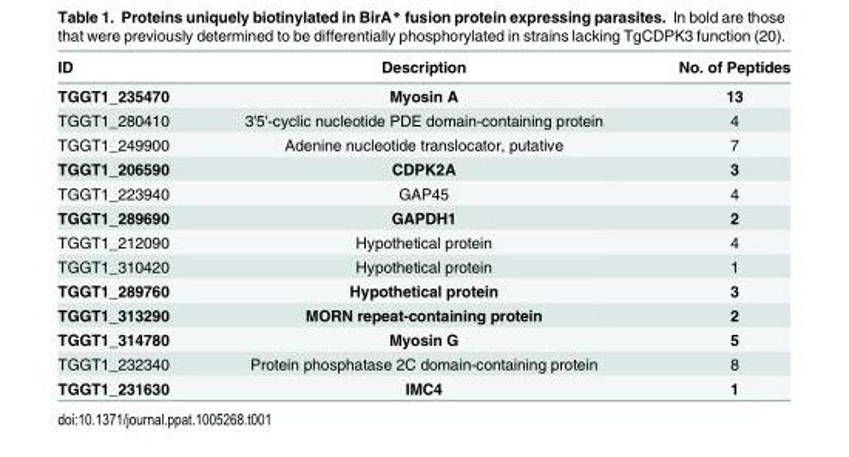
<table><thead><tr><td>ID</td><td>Description</td><td>No. of Peptides</td></tr></thead><tbody><tr><td>TGGT1_235470</td><td>Myosin A</td><td>13</td></tr><tr><td>TGGT1_280410</td><td>3&#x27;5&#x27;-cyclic nucleotide PDE domain-containing protein</td><td>4</td></tr><tr><td>TGGT1_249900</td><td>Adenine nucleotide translocator, putative</td><td>7</td></tr><tr><td>TGGT1_206590</td><td>CDPK2A</td><td>3</td></tr><tr><td>TGGT1_223940</td><td>GAP45</td><td>4</td></tr><tr><td>TGGT1_289690</td><td>GAPDH1</td><td>2</td></tr><tr><td>TGGT1_212090</td><td>Hypothetical protein</td><td>4</td></tr><tr><td>TGGT1_310420</td><td>Hypothetical protein</td><td>1</td></tr><tr><td>TGGT1_289760</td><td>Hypothetical protein</td><td>3</td></tr><tr><td>TGGT1_313290</td><td>MORN repeat-containing protein</td><td>2</td></tr><tr><td>TGGT1_314780</td><td>Myosin G</td><td>5</td></tr><tr><td>TGGT1_232340</td><td>Protein phosphatase 2C domain-containing protein</td><td>8</td></tr><tr><td>TGGT1_231630</td><td>IMC4</td><td>1</td></tr></tbody></table>